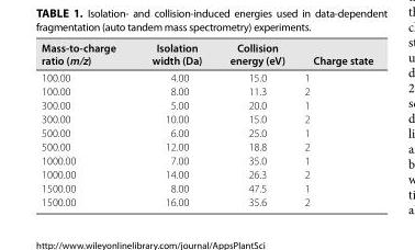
<table><thead><tr><td>Mass- to- charge ratio (m/z)</td><td>Isolation width (Da)</td><td>Collision energy (eV)</td><td>Charge state</td></tr></thead><tbody><tr><td>100.00</td><td>4.00</td><td>15.0</td><td>1</td></tr><tr><td>100.00</td><td>8.00</td><td>11.3</td><td>2</td></tr><tr><td>300.00</td><td>5.00</td><td>20.0</td><td>1</td></tr><tr><td>300.00</td><td>10.00</td><td>15.0</td><td>2</td></tr><tr><td>500.00</td><td>6.00</td><td>25.0</td><td>1</td></tr><tr><td>500.00</td><td>12.00</td><td>18.8</td><td>2</td></tr><tr><td>1000.00</td><td>7.00</td><td>35.0</td><td>1</td></tr><tr><td>1000.00</td><td>14.00</td><td>26.3</td><td>2</td></tr><tr><td>1500.00</td><td>8.00</td><td>47.5</td><td>1</td></tr><tr><td>1500.00</td><td>16.00</td><td>35.6</td><td>2</td></tr></tbody></table>